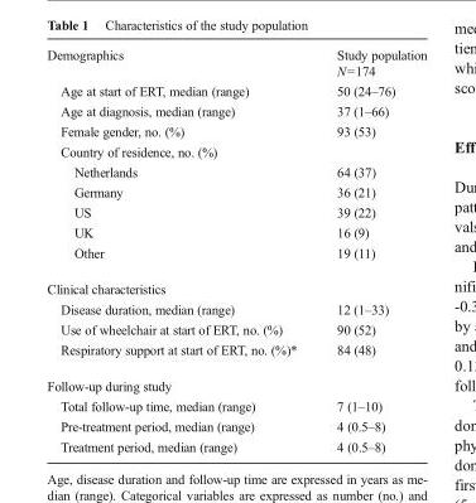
<table><tbody><tr><td>Demographics</td><td>Study population N=174</td></tr><tr><td>Age at start of ERT, median (range)</td><td>50 (24–76)</td></tr><tr><td>Age at diagnosis, median (range)</td><td>37 (1–66)</td></tr><tr><td>Female gender, no. (%)</td><td>93 (53)</td></tr><tr><td colspan="2">Country of residence, no. (%)</td></tr><tr><td>Netherlands</td><td>64 (37)</td></tr><tr><td>Germany</td><td>36 (21)</td></tr><tr><td>US</td><td>39 (22)</td></tr><tr><td>UK</td><td>16 (9)</td></tr><tr><td>Other</td><td>19 (11)</td></tr><tr><td colspan="2">Clinical characteristics</td></tr><tr><td>Disease duration, median (range)</td><td>12 (1–33)</td></tr><tr><td>Use of wheelchair at start of ERT, no. (%)</td><td>90 (52)</td></tr><tr><td>Respiratory support at start of ERT, no. (%)*</td><td>84 (48)</td></tr><tr><td colspan="2">Follow-up during study</td></tr><tr><td>Total follow-up time, median (range)</td><td>7 (1–10)</td></tr><tr><td>Pre-treatment period, median (range)</td><td>4 (0.5–8)</td></tr><tr><td>Treatment period, median (range)</td><td>4 (0.5–8)</td></tr></tbody></table>